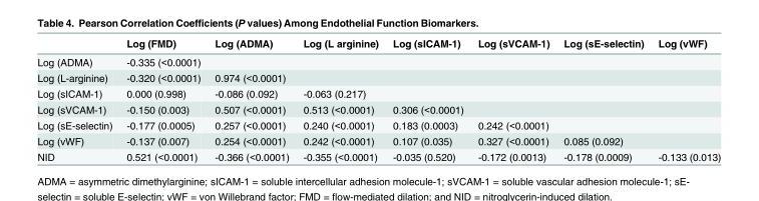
<table><thead><tr><td></td><td>Log (FMD)</td><td>Log (ADMA)</td><td>Log (L arginine)</td><td>Log (sICAM-1)</td><td>Log (sVCAM-1)</td><td>Log (sE-selectin)</td><td>Log (vWF)</td></tr></thead><tbody><tr><td>Log (ADMA)</td><td>-0.335 (&lt;0.0001)</td><td></td><td></td><td></td><td></td><td></td><td></td></tr><tr><td>Log (L-arginine)</td><td>-0.320 (&lt;0.0001)</td><td>0.974 (&lt;0.0001)</td><td></td><td></td><td></td><td></td><td></td></tr><tr><td>Log (sICAM-1)</td><td>0.000 (0.998)</td><td>-0.086 (0.092)</td><td>-0.063 (0.217)</td><td></td><td></td><td></td><td></td></tr><tr><td>Log (sVCAM-1)</td><td>-0.150 (0.003)</td><td>0.507 (&lt;0.0001)</td><td>0.513 (&lt;0.0001)</td><td>0.306 (&lt;0.0001)</td><td></td><td></td><td></td></tr><tr><td>Log (sE-selectin)</td><td>-0.177 (0.0005)</td><td>0.257 (&lt;0.0001)</td><td>0.240 (&lt;0.0001)</td><td>0.183 (0.0003)</td><td>0.242 (&lt;0.0001)</td><td></td><td></td></tr><tr><td>Log (vWF)</td><td>-0.137 (0.007)</td><td>0.254 (&lt;0.0001)</td><td>0.242 (&lt;0.0001)</td><td>0.107 (0.035)</td><td>0.327 (&lt;0.0001)</td><td>0.085 (0.092)</td><td></td></tr><tr><td>NID</td><td>0.521 (&lt;0.0001)</td><td>-0.366 (&lt;0.0001)</td><td>-0.355 (&lt;0.0001)</td><td>-0.035 (0.520)</td><td>-0.172 (0.0013)</td><td>-0.178 (0.0009)</td><td>-0.133 (0.013)</td></tr></tbody></table>